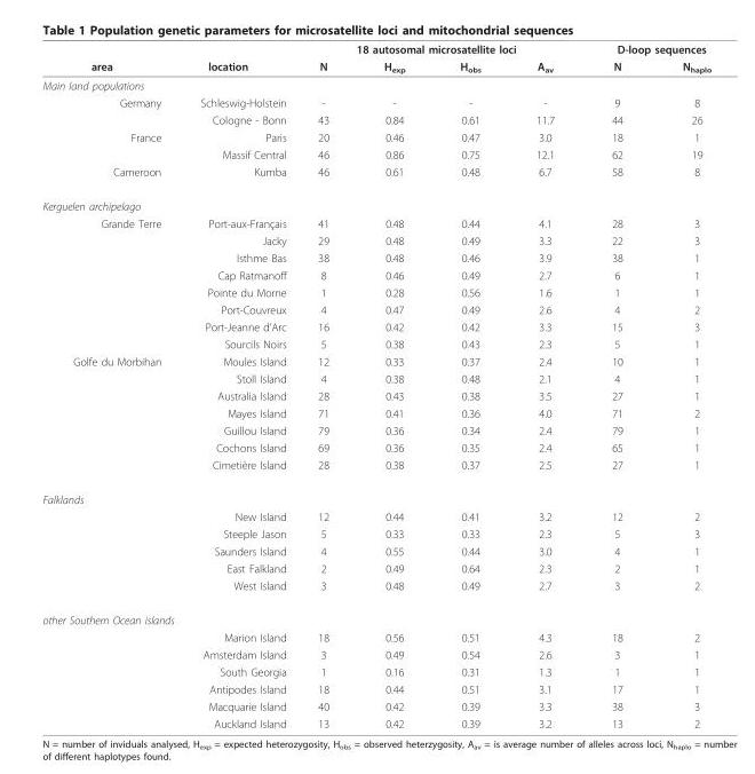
<table><thead><tr><td rowspan="2">area</td><td rowspan="2">location</td><td colspan="4">18 autosomal microsatellite loci</td><td colspan="2">D-loop sequences</td></tr><tr><td>N</td><td>H<sub>exp</sub></td><td>H<sub>obs</sub></td><td>A<sub>av</sub></td><td>N</td><td>N<sub>haplo</sub></td></tr></thead><tbody><tr><td colspan="8">Main land populations</td></tr><tr><td rowspan="2">Germany</td><td>Schleswig-Holstein</td><td>-</td><td>-</td><td>-</td><td>-</td><td>9</td><td>8</td></tr><tr><td>Cologne - Bonn</td><td>43</td><td>0.84</td><td>0.61</td><td>11.7</td><td>44</td><td>26</td></tr><tr><td rowspan="2">France</td><td>Paris</td><td>20</td><td>0.46</td><td>0.47</td><td>3.0</td><td>18</td><td>1</td></tr><tr><td>Massif Central</td><td>46</td><td>0.86</td><td>0.75</td><td>12.1</td><td>62</td><td>19</td></tr><tr><td>Cameroon</td><td>Kumba</td><td>46</td><td>0.61</td><td>0.48</td><td>6.7</td><td>58</td><td>8</td></tr><tr><td colspan="8">Kerguelen archipelago</td></tr><tr><td rowspan="8">Grande Terre</td><td>Port-aux-Français</td><td>41</td><td>0.48</td><td>0.44</td><td>4.1</td><td>28</td><td>3</td></tr><tr><td>Jacky</td><td>29</td><td>0.48</td><td>0.49</td><td>3.3</td><td>22</td><td>3</td></tr><tr><td>Isthme Bas</td><td>38</td><td>0.48</td><td>0.46</td><td>3.9</td><td>38</td><td>1</td></tr><tr><td>Cap Ratmanoff</td><td>8</td><td>0.46</td><td>0.49</td><td>2.7</td><td>6</td><td>1</td></tr><tr><td>Pointe du Morne</td><td>1</td><td>0.28</td><td>0.56</td><td>1.6</td><td>1</td><td>1</td></tr><tr><td>Port-Couvreux</td><td>4</td><td>0.47</td><td>0.49</td><td>2.6</td><td>4</td><td>2</td></tr><tr><td>Port-Jeanne d’Arc</td><td>16</td><td>0.42</td><td>0.42</td><td>3.3</td><td>15</td><td>3</td></tr><tr><td>Sourcils Noirs</td><td>5</td><td>0.38</td><td>0.43</td><td>2.3</td><td>5</td><td>1</td></tr><tr><td rowspan="7">Golfe du Morbihan</td><td>Moules Island</td><td>12</td><td>0.33</td><td>0.37</td><td>2.4</td><td>10</td><td>1</td></tr><tr><td>Stoll Island</td><td>4</td><td>0.38</td><td>0.48</td><td>2.1</td><td>4</td><td>1</td></tr><tr><td>Australia Island</td><td>28</td><td>0.43</td><td>0.38</td><td>3.5</td><td>27</td><td>1</td></tr><tr><td>Mayes Island</td><td>71</td><td>0.41</td><td>0.36</td><td>4.0</td><td>71</td><td>2</td></tr><tr><td>Guillou Island</td><td>79</td><td>0.36</td><td>0.34</td><td>2.4</td><td>79</td><td>1</td></tr><tr><td>Cochons Island</td><td>69</td><td>0.36</td><td>0.35</td><td>2.4</td><td>65</td><td>1</td></tr><tr><td>Cimetière Island</td><td>28</td><td>0.38</td><td>0.37</td><td>2.5</td><td>27</td><td>1</td></tr><tr><td colspan="8">Falklands</td></tr><tr><td></td><td>New Island</td><td>12</td><td>0.44</td><td>0.41</td><td>3.2</td><td>12</td><td>2</td></tr><tr><td></td><td>Steeple Jason</td><td>5</td><td>0.33</td><td>0.33</td><td>2.3</td><td>5</td><td>3</td></tr><tr><td></td><td>Saunders Island</td><td>4</td><td>0.55</td><td>0.44</td><td>3.0</td><td>4</td><td>1</td></tr><tr><td></td><td>East Falkland</td><td>2</td><td>0.49</td><td>0.64</td><td>2.3</td><td>2</td><td>1</td></tr><tr><td></td><td>West Island</td><td>3</td><td>0.48</td><td>0.49</td><td>2.7</td><td>3</td><td>2</td></tr><tr><td colspan="8">other Southern Ocean islands</td></tr><tr><td></td><td>Marion Island</td><td>18</td><td>0.56</td><td>0.51</td><td>4.3</td><td>18</td><td>2</td></tr><tr><td></td><td>Amsterdam Island</td><td>3</td><td>0.49</td><td>0.54</td><td>2.6</td><td>3</td><td>1</td></tr><tr><td></td><td>South Georgia</td><td>1</td><td>0.16</td><td>0.31</td><td>1.3</td><td>1</td><td>1</td></tr><tr><td></td><td>Antipodes Island</td><td>18</td><td>0.44</td><td>0.51</td><td>3.1</td><td>17</td><td>1</td></tr><tr><td></td><td>Macquarie Island</td><td>40</td><td>0.42</td><td>0.39</td><td>3.3</td><td>38</td><td>3</td></tr><tr><td></td><td>Auckland Island</td><td>13</td><td>0.42</td><td>0.39</td><td>3.2</td><td>13</td><td>2</td></tr></tbody></table>